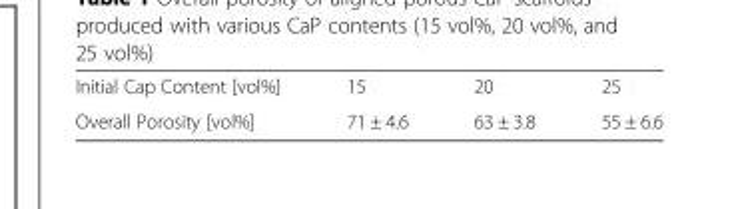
<table><tbody><tr><td>Initial Cap Content [vol%]</td><td>15</td><td>20</td><td>25</td></tr><tr><td>Overall Porosity [vol%]</td><td>71 ± 4.6</td><td>63 ± 3.8</td><td>55 ± 6.6</td></tr></tbody></table>